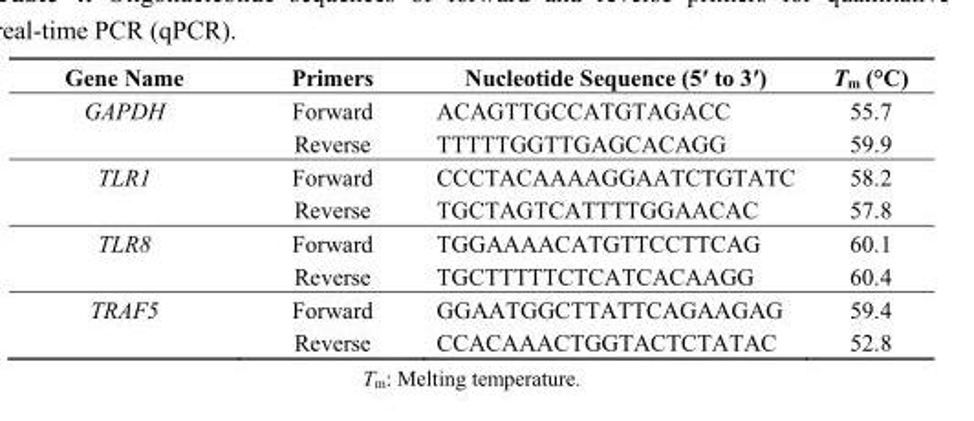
<table><thead><tr><td>Gene Name</td><td>Primers</td><td>Nucleotide Sequence (5′ to 3′)</td><td>T<sub>m</sub> (°C)</td></tr></thead><tbody><tr><td rowspan="2">GAPDH</td><td>Forward</td><td>ACAGTTGCCATGTAGACC</td><td>55.7</td></tr><tr><td>Reverse</td><td>TTTTTGGTTGAGCACAGG</td><td>59.9</td></tr><tr><td rowspan="2">TLR1</td><td>Forward</td><td>CCCTACAAAAGGAATCTGTATC</td><td>58.2</td></tr><tr><td>Reverse</td><td>TGCTAGTCATTTTGGAACAC</td><td>57.8</td></tr><tr><td rowspan="2">TLR8</td><td>Forward</td><td>TGGAAAACATGTTCCTTCAG</td><td>60.1</td></tr><tr><td>Reverse</td><td>TGCTTTTTCTCATCACAAGG</td><td>60.4</td></tr><tr><td rowspan="2">TRAF5</td><td>Forward</td><td>GGAATGGCTTATTCAGAAGAG</td><td>59.4</td></tr><tr><td>Reverse</td><td>CCACAAACTGGTACTCTATAC</td><td>52.8</td></tr></tbody></table>